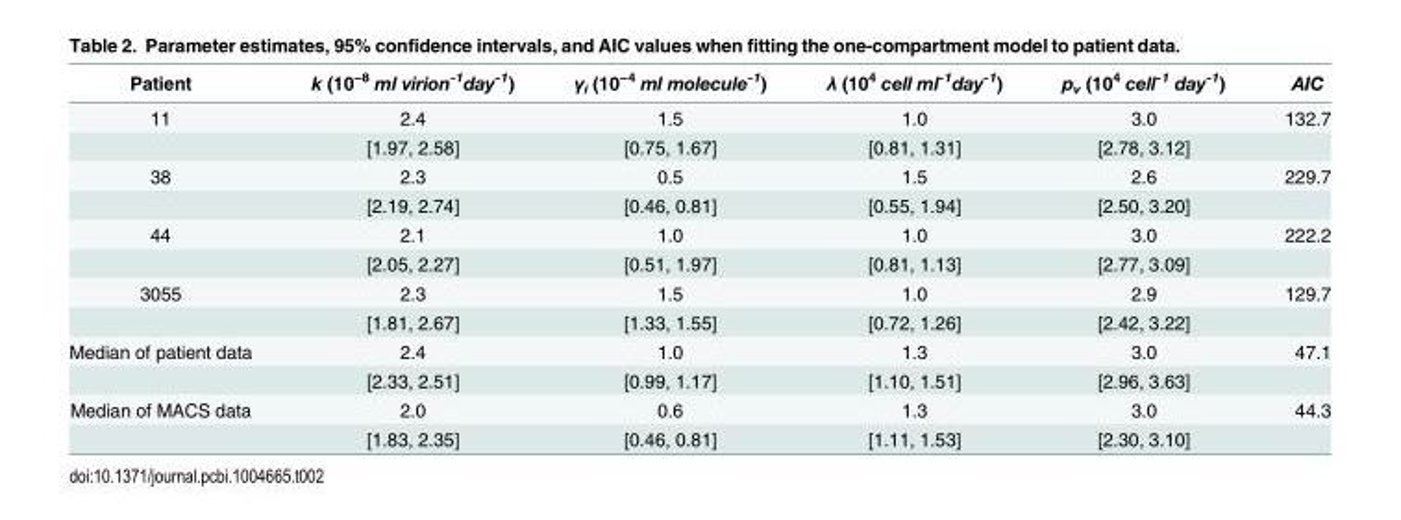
<table><thead><tr><td>Patient</td><td>k (10<sup>−8</sup> ml virion<sup>-1</sup>day<sup>-1</sup>)</td><td>γ<sub>i</sub> (10<sup>−4</sup> ml molecule<sup>-1</sup>)</td><td>λ (10<sup>4</sup> cell ml<sup>-1</sup>day<sup>-1</sup>)</td><td>p<sub>v</sub> (10<sup>4</sup> cell<sup>-1</sup> day<sup>-1</sup>)</td><td>AIC</td></tr></thead><tbody><tr><td rowspan="2">11</td><td>2.4</td><td>1.5</td><td>1.0</td><td>3.0</td><td>132.7</td></tr><tr><td>[1.97, 2.58]</td><td>[0.75, 1.67]</td><td>[0.81, 1.31]</td><td>[2.78, 3.12]</td><td></td></tr><tr><td rowspan="2">38</td><td>2.3</td><td>0.5</td><td>1.5</td><td>2.6</td><td>229.7</td></tr><tr><td>[2.19, 2.74]</td><td>[0.46, 0.81]</td><td>[0.55, 1.94]</td><td>[2.50, 3.20]</td><td></td></tr><tr><td rowspan="2">44</td><td>2.1</td><td>1.0</td><td>1.0</td><td>3.0</td><td>222.2</td></tr><tr><td>[2.05, 2.27]</td><td>[0.51, 1.97]</td><td>[0.81, 1.13]</td><td>[2.77, 3.09]</td><td></td></tr><tr><td rowspan="2">3055</td><td>2.3</td><td>1.5</td><td>1.0</td><td>2.9</td><td>129.7</td></tr><tr><td>[1.81, 2.67]</td><td>[1.33, 1.55]</td><td>[0.72, 1.26]</td><td>[2.42, 3.22]</td><td></td></tr><tr><td rowspan="2">Median of patient data</td><td>2.4</td><td>1.0</td><td>1.3</td><td>3.0</td><td>47.1</td></tr><tr><td>[2.33, 2.51]</td><td>[0.99, 1.17]</td><td>[1.10, 1.51]</td><td>[2.96, 3.63]</td><td></td></tr><tr><td rowspan="2">Median of MACS data</td><td>2.0</td><td>0.6</td><td>1.3</td><td>3.0</td><td>44.3</td></tr><tr><td>[1.83, 2.35]</td><td>[0.46, 0.81]</td><td>[1.11, 1.53]</td><td>[2.30, 3.10]</td><td></td></tr></tbody></table>